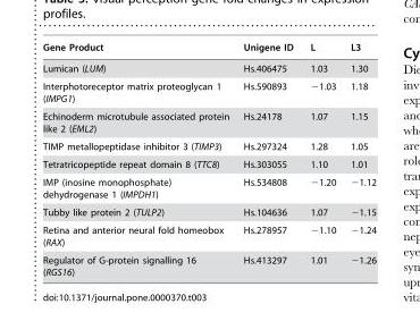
<table><thead><tr><td>Gene Product</td><td>Unigene ID</td><td>L</td><td>L3</td></tr></thead><tbody><tr><td>Lumican (LUM)</td><td>Hs.406475</td><td>1.03</td><td>1.30</td></tr><tr><td>Interphotoreceptor matrix proteoglycan 1 (IMPG1)</td><td>Hs.590893</td><td>−1.03</td><td>1.18</td></tr><tr><td>Echinoderm microtubule associated protein like 2 (EML2)</td><td>Hs.24178</td><td>1.07</td><td>1.15</td></tr><tr><td>TIMP metallopeptidase inhibitor 3 (TIMP3)</td><td>Hs.297324</td><td>1.28</td><td>1.05</td></tr><tr><td>Tetratricopeptide repeat domain 8 (TTC8)</td><td>Hs.303055</td><td>1.10</td><td>1.01</td></tr><tr><td>IMP (inosine monophosphate) dehydrogenase 1 (IMPDH1)</td><td>Hs.534808</td><td>−1.20</td><td>−1.12</td></tr><tr><td>Tubby like protein 2 (TULP2)</td><td>Hs.104636</td><td>1.07</td><td>−1.15</td></tr><tr><td>Retina and anterior neural fold homeobox (RAX)</td><td>Hs.278957</td><td>−1.10</td><td>−1.24</td></tr><tr><td>Regulator of G-protein signalling 16 (RGS16)</td><td>Hs.413297</td><td>1.01</td><td>−1.26</td></tr></tbody></table>